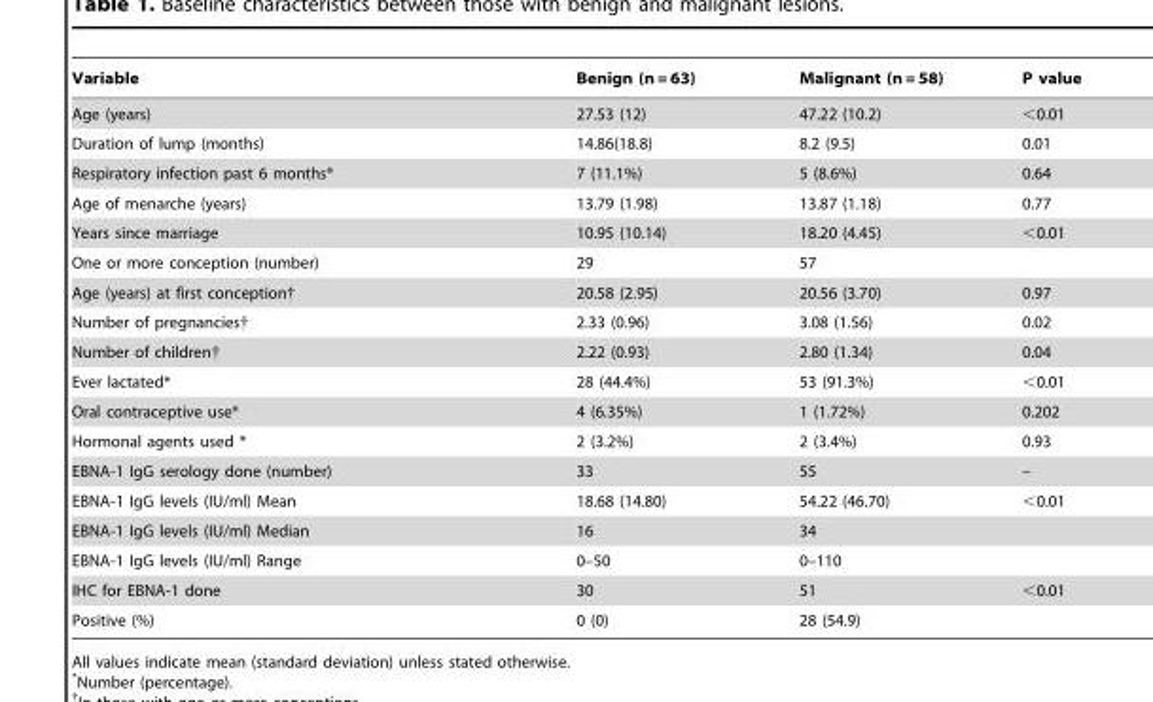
<table><thead><tr><td>Variable</td><td>Benign (n = 63)</td><td>Malignant (n = 58)</td><td>P value</td></tr></thead><tbody><tr><td>Age (years)</td><td>27.53 (12)</td><td>47.22 (10.2)</td><td>&lt;0.01</td></tr><tr><td>Duration of lump (months)</td><td>14.86(18.8)</td><td>8.2 (9.5)</td><td>0.01</td></tr><tr><td>Respiratory infection past 6 months*</td><td>7 (11.1%)</td><td>5 (8.6%)</td><td>0.64</td></tr><tr><td>Age of menarche (years)</td><td>13.79 (1.98)</td><td>13.87 (1.18)</td><td>0.77</td></tr><tr><td>Years since marriage</td><td>10.95 (10.14)</td><td>18.20 (4.45)</td><td>&lt;0.01</td></tr><tr><td>One or more conception (number)</td><td>29</td><td>57</td><td></td></tr><tr><td>Age (years) at first conception†</td><td>20.58 (2.95)</td><td>20.56 (3.70)</td><td>0.97</td></tr><tr><td>Number of pregnancies†</td><td>2.33 (0.96)</td><td>3.08 (1.56)</td><td>0.02</td></tr><tr><td>Number of children†</td><td>2.22 (0.93)</td><td>2.80 (1.34)</td><td>0.04</td></tr><tr><td>Ever lactated*</td><td>28 (44.4%)</td><td>53 (91.3%)</td><td>&lt;0.01</td></tr><tr><td>Oral contraceptive use*</td><td>4 (6.35%)</td><td>1 (1.72%)</td><td>0.202</td></tr><tr><td>Hormonal agents used *</td><td>2 (3.2%)</td><td>2 (3.4%)</td><td>0.93</td></tr><tr><td>EBNA-1 IgG serology done (number)</td><td>33</td><td>55</td><td>–</td></tr><tr><td>EBNA-1 IgG levels (IU/ml) Mean</td><td>18.68 (14.80)</td><td>54.22 (46.70)</td><td>&lt;0.01</td></tr><tr><td>EBNA-1 IgG levels (IU/ml) Median</td><td>16</td><td>34</td><td></td></tr><tr><td>EBNA-1 IgG levels (IU/ml) Range</td><td>0–50</td><td>0–110</td><td></td></tr><tr><td>IHC for EBNA-1 done</td><td>30</td><td>51</td><td>&lt;0.01</td></tr><tr><td>Positive (%)</td><td>0 (0)</td><td>28 (54.9)</td><td></td></tr></tbody></table>